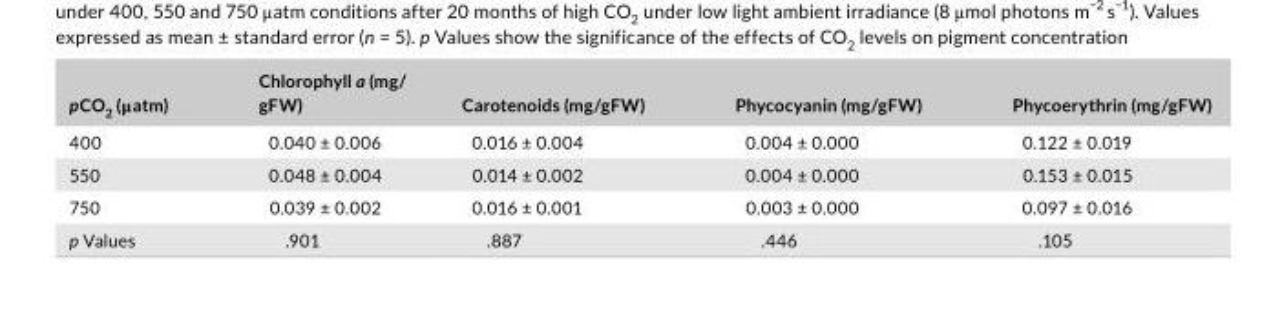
<table><thead><tr><td>pCO<sub>2</sub> (μatm)</td><td>Chlorophyll a (mg/ gFW)</td><td>Carotenoids (mg/gFW)</td><td>Phycocyanin (mg/gFW)</td><td>Phycoerythrin (mg/gFW)</td></tr></thead><tbody><tr><td>400</td><td>0.040 ± 0.006</td><td>0.016 ± 0.004</td><td>0.004 ± 0.000</td><td>0.122 ± 0.019</td></tr><tr><td>550</td><td>0.048 ± 0.004</td><td>0.014 ± 0.002</td><td>0.004 ± 0.000</td><td>0.153 ± 0.015</td></tr><tr><td>750</td><td>0.039 ± 0.002</td><td>0.016 ± 0.001</td><td>0.003 ± 0.000</td><td>0.097 ± 0.016</td></tr><tr><td>p Values</td><td>.901</td><td>.887</td><td>.446</td><td>.105</td></tr></tbody></table>